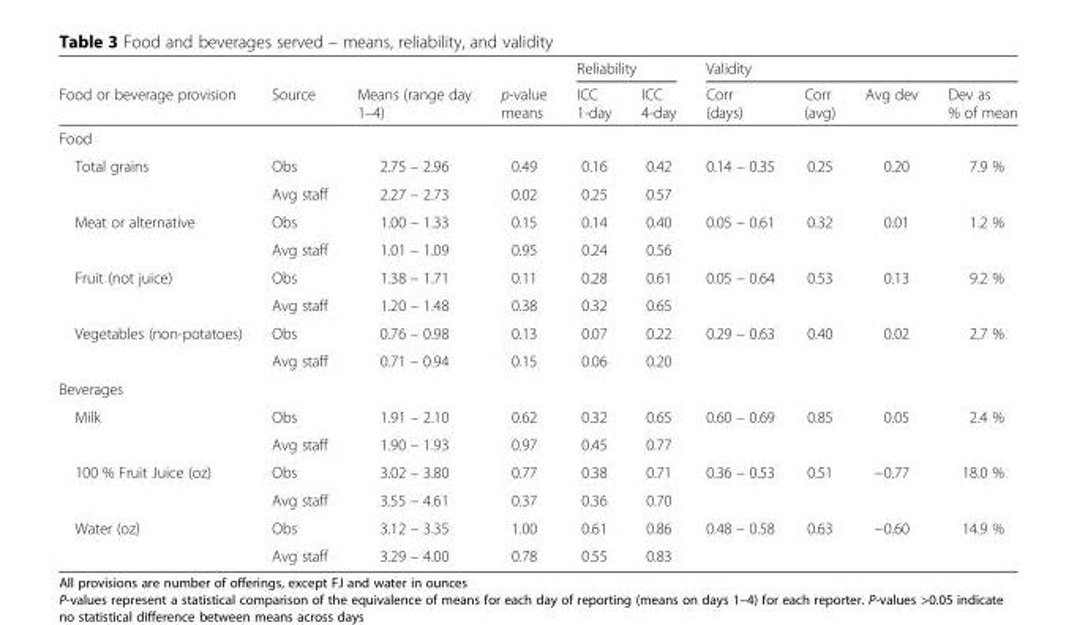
<table><thead><tr><td rowspan="2">Food or beverage provision</td><td rowspan="2">Source</td><td rowspan="2">Means (range day 1–4)</td><td rowspan="2">p-value means</td><td colspan="2">Reliability</td><td colspan="4">Validity</td></tr><tr><td>ICC 1-day</td><td>ICC 4-day</td><td>Corr (days)</td><td>Corr (avg)</td><td>Avg dev</td><td>Dev as % of mean</td></tr></thead><tbody><tr><td colspan="10">Food</td></tr><tr><td rowspan="2">Total grains</td><td>Obs</td><td>2.75 – 2.96</td><td>0.49</td><td>0.16</td><td>0.42</td><td>0.14 – 0.35</td><td>0.25</td><td>0.20</td><td>7.9 %</td></tr><tr><td>Avg staff</td><td>2.27 – 2.73</td><td>0.02</td><td>0.25</td><td>0.57</td><td></td><td></td><td></td><td></td></tr><tr><td rowspan="2">Meat or alternative</td><td>Obs</td><td>1.00 – 1.33</td><td>0.15</td><td>0.14</td><td>0.40</td><td>0.05 – 0.61</td><td>0.32</td><td>0.01</td><td>1.2 %</td></tr><tr><td>Avg staff</td><td>1.01 – 1.09</td><td>0.95</td><td>0.24</td><td>0.56</td><td></td><td></td><td></td><td></td></tr><tr><td rowspan="2">Fruit (not juice)</td><td>Obs</td><td>1.38 – 1.71</td><td>0.11</td><td>0.28</td><td>0.61</td><td>0.05 – 0.64</td><td>0.53</td><td>0.13</td><td>9.2 %</td></tr><tr><td>Avg staff</td><td>1.20 – 1.48</td><td>0.38</td><td>0.32</td><td>0.65</td><td></td><td></td><td></td><td></td></tr><tr><td rowspan="2">Vegetables (non-potatoes)</td><td>Obs</td><td>0.76 – 0.98</td><td>0.13</td><td>0.07</td><td>0.22</td><td>0.29 – 0.63</td><td>0.40</td><td>0.02</td><td>2.7 %</td></tr><tr><td>Avg staff</td><td>0.71 – 0.94</td><td>0.15</td><td>0.06</td><td>0.20</td><td></td><td></td><td></td><td></td></tr><tr><td colspan="10">Beverages</td></tr><tr><td rowspan="2">Milk</td><td>Obs</td><td>1.91 – 2.10</td><td>0.62</td><td>0.32</td><td>0.65</td><td>0.60 – 0.69</td><td>0.85</td><td>0.05</td><td>2.4 %</td></tr><tr><td>Avg staff</td><td>1.90 – 1.93</td><td>0.97</td><td>0.45</td><td>0.77</td><td></td><td></td><td></td><td></td></tr><tr><td rowspan="2">100 % Fruit Juice (oz)</td><td>Obs</td><td>3.02 – 3.80</td><td>0.77</td><td>0.38</td><td>0.71</td><td>0.36 – 0.53</td><td>0.51</td><td>−0.77</td><td>18.0 %</td></tr><tr><td>Avg staff</td><td>3.55 – 4.61</td><td>0.37</td><td>0.36</td><td>0.70</td><td></td><td></td><td></td><td></td></tr><tr><td rowspan="2">Water (oz)</td><td>Obs</td><td>3.12 – 3.35</td><td>1.00</td><td>0.61</td><td>0.86</td><td>0.48 – 0.58</td><td>0.63</td><td>−0.60</td><td>14.9 %</td></tr><tr><td>Avg staff</td><td>3.29 – 4.00</td><td>0.78</td><td>0.55</td><td>0.83</td><td></td><td></td><td></td><td></td></tr></tbody></table>